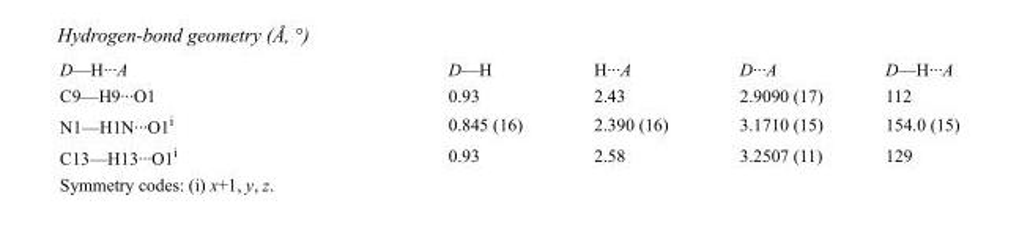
<table><tbody><tr><td>D—H···A</td><td>D—H</td><td>H···A</td><td>D···A</td><td>D—H···A</td></tr><tr><td>C9—H9···O1</td><td>0.93</td><td>2.43</td><td>2.9090 (17)</td><td>112</td></tr><tr><td>N1—H1N···O1<sup>i</sup></td><td>0.845 (16)</td><td>2.390 (16)</td><td>3.1710 (15)</td><td>154.0 (15)</td></tr><tr><td>C13—H13···O1<sup>i</sup></td><td>0.93</td><td>2.58</td><td>3.2507 (11)</td><td>129</td></tr></tbody></table>